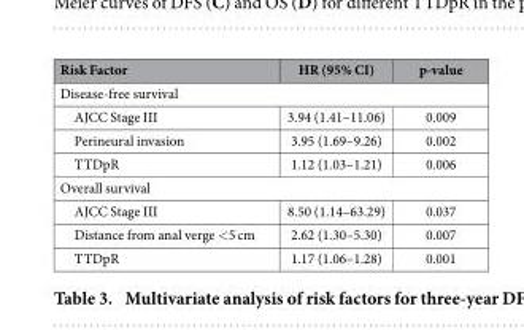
<table><thead><tr><td>Risk Factor</td><td>HR (95% CI)</td><td>p-value</td></tr></thead><tbody><tr><td colspan="3">Disease-free survival</td></tr><tr><td>AJCC Stage III</td><td>3.94 (1.41–11.06)</td><td>0.009</td></tr><tr><td>Perineural invasion</td><td>3.95 (1.69–9.26)</td><td>0.002</td></tr><tr><td>TTDpR</td><td>1.12 (1.03–1.21)</td><td>0.006</td></tr><tr><td colspan="3">Overall survival</td></tr><tr><td>AJCC Stage III</td><td>8.50 (1.14–63.29)</td><td>0.037</td></tr><tr><td>Distance from anal verge &lt; 5 cm</td><td>2.62 (1.30–5.30)</td><td>0.007</td></tr><tr><td>TTDpR</td><td>1.17 (1.06–1.28)</td><td>0.001</td></tr></tbody></table>